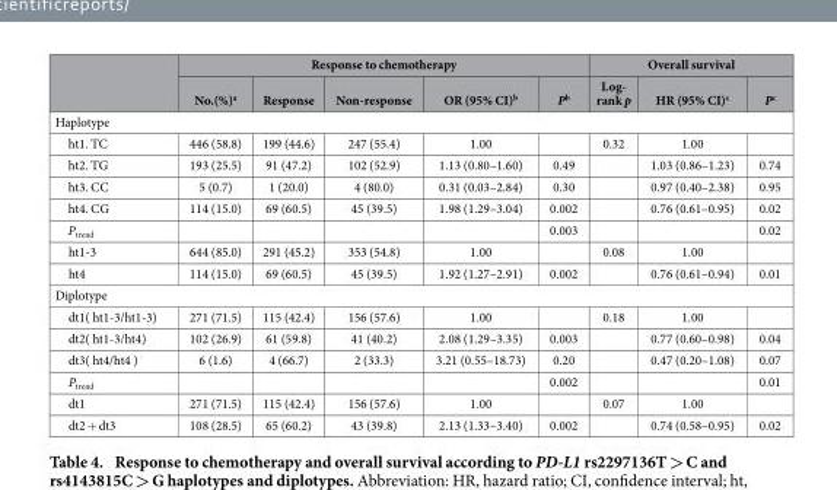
<table><thead><tr><td rowspan="2"></td><td colspan="5">Response to chemotherapy</td><td colspan="3">Overall survival</td></tr><tr><td>No.(%)<sup>a</sup></td><td>Response</td><td>Non-response</td><td>OR (95% CI)<sup>b</sup></td><td>P<sup>b</sup></td><td>Log- rank p</td><td>HR (95% CI)<sup>c</sup></td><td>P<sup>c</sup></td></tr></thead><tbody><tr><td colspan="9">Haplotype</td></tr><tr><td>ht1. TC</td><td>446 (58.8)</td><td>199 (44.6)</td><td>247 (55.4)</td><td>1.00</td><td></td><td>0.32</td><td>1.00</td><td></td></tr><tr><td>ht2. TG</td><td>193 (25.5)</td><td>91 (47.2)</td><td>102 (52.9)</td><td>1.13 (0.80–1.60)</td><td>0.49</td><td></td><td>1.03 (0.86–1.23)</td><td>0.74</td></tr><tr><td>ht3. CC</td><td>5 (0.7)</td><td>1 (20.0)</td><td>4 (80.0)</td><td>0.31 (0.03–2.84)</td><td>0.30</td><td></td><td>0.97 (0.40–2.38)</td><td>0.95</td></tr><tr><td>ht4. CG</td><td>114 (15.0)</td><td>69 (60.5)</td><td>45 (39.5)</td><td>1.98 (1.29–3.04)</td><td>0.002</td><td></td><td>0.76 (0.61–0.95)</td><td>0.02</td></tr><tr><td>P<sub>trend</sub></td><td></td><td></td><td></td><td></td><td>0.003</td><td></td><td></td><td>0.02</td></tr><tr><td>ht1-3</td><td>644 (85.0)</td><td>291 (45.2)</td><td>353 (54.8)</td><td>1.00</td><td></td><td>0.08</td><td>1.00</td><td></td></tr><tr><td>ht4</td><td>114 (15.0)</td><td>69 (60.5)</td><td>45 (39.5)</td><td>1.92 (1.27–2.91)</td><td>0.002</td><td></td><td>0.76 (0.61–0.94)</td><td>0.01</td></tr><tr><td colspan="9">Diplotype</td></tr><tr><td>dt1( ht1-3/ht1-3)</td><td>271 (71.5)</td><td>115 (42.4)</td><td>156 (57.6)</td><td>1.00</td><td></td><td>0.18</td><td>1.00</td><td></td></tr><tr><td>dt2( ht1-3/ht4)</td><td>102 (26.9)</td><td>61 (59.8)</td><td>41 (40.2)</td><td>2.08 (1.29–3.35)</td><td>0.003</td><td></td><td>0.77 (0.60–0.98)</td><td>0.04</td></tr><tr><td>dt3( ht4/ht4 )</td><td>6 (1.6)</td><td>4 (66.7)</td><td>2 (33.3)</td><td>3.21 (0.55–18.73)</td><td>0.20</td><td></td><td>0.47 (0.20–1.08)</td><td>0.07</td></tr><tr><td>P<sub>trend</sub></td><td></td><td></td><td></td><td></td><td>0.002</td><td></td><td></td><td>0.01</td></tr><tr><td>dt1</td><td>271 (71.5)</td><td>115 (42.4)</td><td>156 (57.6)</td><td>1.00</td><td></td><td>0.07</td><td>1.00</td><td></td></tr><tr><td>dt2 + dt3</td><td>108 (28.5)</td><td>65 (60.2)</td><td>43 (39.8)</td><td>2.13 (1.33–3.40)</td><td>0.002</td><td></td><td>0.74 (0.58–0.95)</td><td>0.02</td></tr></tbody></table>